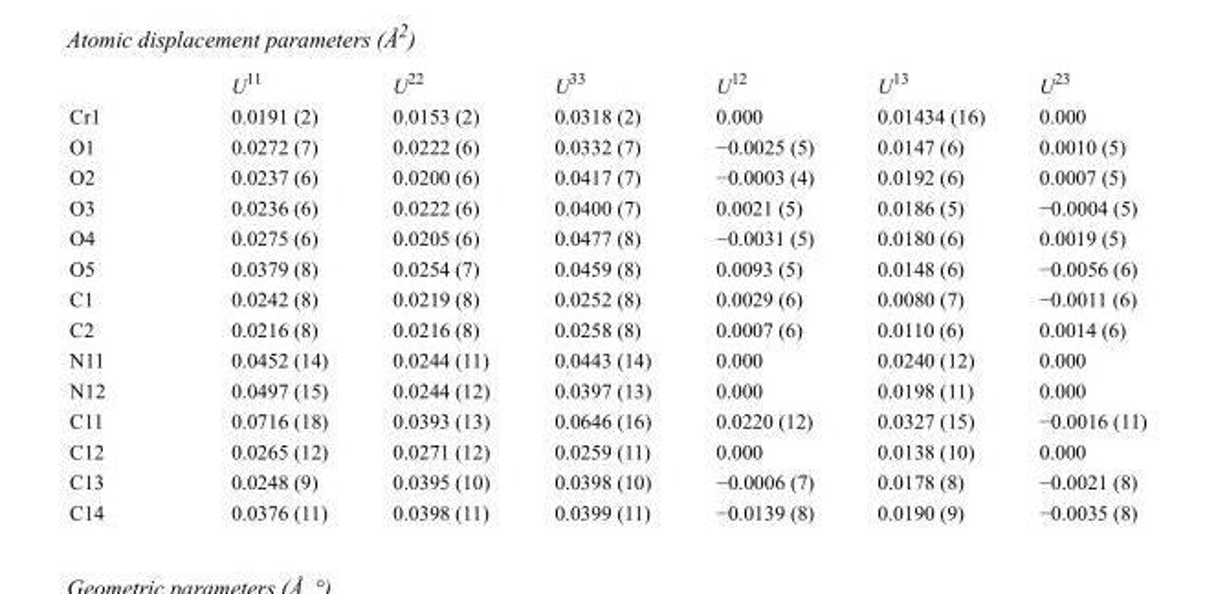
<table><thead><tr><td></td><td>U<sup>11</sup></td><td>U<sup>22</sup></td><td>U<sup>33</sup></td><td>U<sup>12</sup></td><td>U<sup>13</sup></td><td>U<sup>23</sup></td></tr></thead><tbody><tr><td>Cr1</td><td>0.0191 (2)</td><td>0.0153 (2)</td><td>0.0318 (2)</td><td>0.000</td><td>0.01434 (16)</td><td>0.000</td></tr><tr><td>O1</td><td>0.0272 (7)</td><td>0.0222 (6)</td><td>0.0332 (7)</td><td>−0.0025 (5)</td><td>0.0147 (6)</td><td>0.0010 (5)</td></tr><tr><td>O2</td><td>0.0237 (6)</td><td>0.0200 (6)</td><td>0.0417 (7)</td><td>−0.0003 (4)</td><td>0.0192 (6)</td><td>0.0007 (5)</td></tr><tr><td>O3</td><td>0.0236 (6)</td><td>0.0222 (6)</td><td>0.0400 (7)</td><td>0.0021 (5)</td><td>0.0186 (5)</td><td>−0.0004 (5)</td></tr><tr><td>O4</td><td>0.0275 (6)</td><td>0.0205 (6)</td><td>0.0477 (8)</td><td>−0.0031 (5)</td><td>0.0180 (6)</td><td>0.0019 (5)</td></tr><tr><td>O5</td><td>0.0379 (8)</td><td>0.0254 (7)</td><td>0.0459 (8)</td><td>0.0093 (5)</td><td>0.0148 (6)</td><td>−0.0056 (6)</td></tr><tr><td>C1</td><td>0.0242 (8)</td><td>0.0219 (8)</td><td>0.0252 (8)</td><td>0.0029 (6)</td><td>0.0080 (7)</td><td>−0.0011 (6)</td></tr><tr><td>C2</td><td>0.0216 (8)</td><td>0.0216 (8)</td><td>0.0258 (8)</td><td>0.0007 (6)</td><td>0.0110 (6)</td><td>0.0014 (6)</td></tr><tr><td>N11</td><td>0.0452 (14)</td><td>0.0244 (11)</td><td>0.0443 (14)</td><td>0.000</td><td>0.0240 (12)</td><td>0.000</td></tr><tr><td>N12</td><td>0.0497 (15)</td><td>0.0244 (12)</td><td>0.0397 (13)</td><td>0.000</td><td>0.0198 (11)</td><td>0.000</td></tr><tr><td>C11</td><td>0.0716 (18)</td><td>0.0393 (13)</td><td>0.0646 (16)</td><td>0.0220 (12)</td><td>0.0327 (15)</td><td>−0.0016 (11)</td></tr><tr><td>C12</td><td>0.0265 (12)</td><td>0.0271 (12)</td><td>0.0259 (11)</td><td>0.000</td><td>0.0138 (10)</td><td>0.000</td></tr><tr><td>C13</td><td>0.0248 (9)</td><td>0.0395 (10)</td><td>0.0398 (10)</td><td>−0.0006 (7)</td><td>0.0178 (8)</td><td>−0.0021 (8)</td></tr><tr><td>C14</td><td>0.0376 (11)</td><td>0.0398 (11)</td><td>0.0399 (11)</td><td>−0.0139 (8)</td><td>0.0190 (9)</td><td>−0.0035 (8)</td></tr></tbody></table>